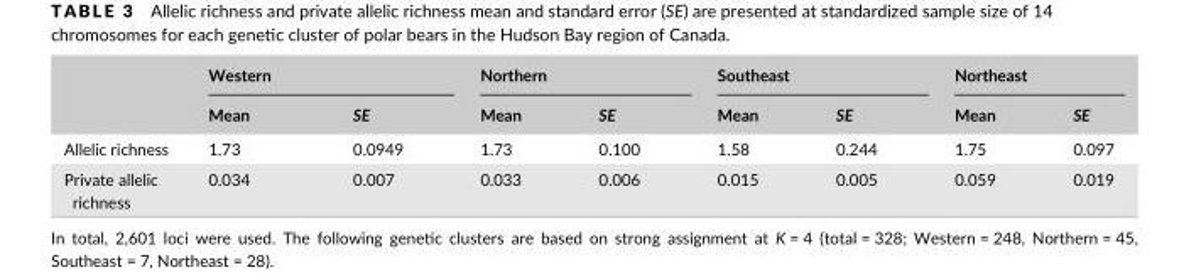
<table><thead><tr><td rowspan="2"></td><td colspan="2">Western</td><td colspan="2">Northern</td><td colspan="2">Southeast</td><td colspan="2">Northeast</td></tr><tr><td>Mean</td><td>SE</td><td>Mean</td><td>SE</td><td>Mean</td><td>SE</td><td>Mean</td><td>SE</td></tr></thead><tbody><tr><td>Allelic richness</td><td>1.73</td><td>0.0949</td><td>1.73</td><td>0.100</td><td>1.58</td><td>0.244</td><td>1.75</td><td>0.097</td></tr><tr><td>Private allelic richness</td><td>0.034</td><td>0.007</td><td>0.033</td><td>0.006</td><td>0.015</td><td>0.005</td><td>0.059</td><td>0.019</td></tr></tbody></table>